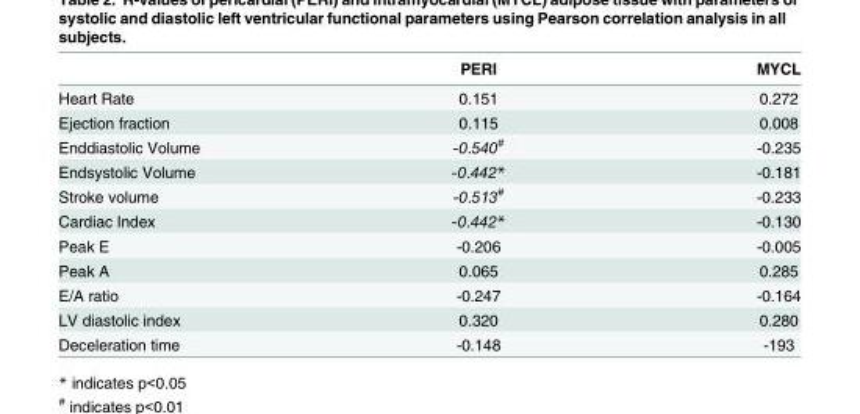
<table><thead><tr><td></td><td>PERI</td><td>MYCL</td></tr></thead><tbody><tr><td>Heart Rate</td><td>0.151</td><td>0.272</td></tr><tr><td>Ejection fraction</td><td>0.115</td><td>0.008</td></tr><tr><td>Enddiastolic Volume</td><td>-0.540<sup>#</sup></td><td>-0.235</td></tr><tr><td>Endsystolic Volume</td><td>-0.442*</td><td>-0.181</td></tr><tr><td>Stroke volume</td><td>-0.513<sup>#</sup></td><td>-0.233</td></tr><tr><td>Cardiac Index</td><td>-0.442*</td><td>-0.130</td></tr><tr><td>Peak E</td><td>-0.206</td><td>-0.005</td></tr><tr><td>Peak A</td><td>0.065</td><td>0.285</td></tr><tr><td>E/A ratio</td><td>-0.247</td><td>-0.164</td></tr><tr><td>LV diastolic index</td><td>0.320</td><td>0.280</td></tr><tr><td>Deceleration time</td><td>-0.148</td><td>-193</td></tr></tbody></table>